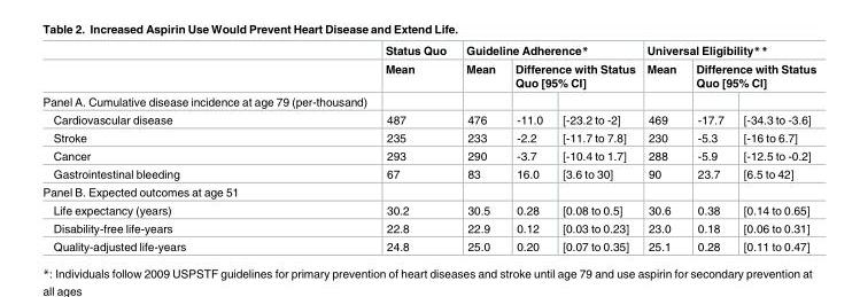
<table><thead><tr><td rowspan="3">Panel A. Cumulative disease incidence at age 79 (per-thousand)</td><td rowspan="3">Status Quo Mean</td><td colspan="3">Guideline Adherence*</td><td colspan="3">Universal Eligibility**</td></tr><tr><td rowspan="2">Mean</td><td colspan="2">Difference with Status Quo [95% CI]</td><td rowspan="2">Mean</td><td colspan="2">Difference with Status Quo [95% CI]</td></tr><tr><td></td><td></td><td></td><td></td></tr></thead><tbody><tr><td>Cardiovascular disease</td><td>487</td><td>476</td><td>-11.0</td><td>[-23.2 to -2]</td><td>469</td><td>-17.7</td><td>[-34.3 to -3.6]</td></tr><tr><td>Stroke</td><td>235</td><td>233</td><td>-2.2</td><td>[-11.7 to 7.8]</td><td>230</td><td>-5.3</td><td>[-16 to 6.7]</td></tr><tr><td>Cancer</td><td>293</td><td>290</td><td>-3.7</td><td>[-10.4 to 1.7]</td><td>288</td><td>-5.9</td><td>[-12.5 to -0.2]</td></tr><tr><td>Gastrointestinal bleeding</td><td>67</td><td>83</td><td>16.0</td><td>[3.6 to 30]</td><td>90</td><td>23.7</td><td>[6.5 to 42]</td></tr><tr><td colspan="8">Panel B. Expected outcomes at age 51</td></tr><tr><td>Life expectancy (years)</td><td>30.2</td><td>30.5</td><td>0.28</td><td>[0.08 to 0.5]</td><td>30.6</td><td>0.38</td><td>[0.14 to 0.65]</td></tr><tr><td>Disability-free life-years</td><td>22.8</td><td>22.9</td><td>0.12</td><td>[0.03 to 0.23]</td><td>23.0</td><td>0.18</td><td>[0.06 to 0.31]</td></tr><tr><td>Quality-adjusted life-years</td><td>24.8</td><td>25.0</td><td>0.20</td><td>[0.07 to 0.35]</td><td>25.1</td><td>0.28</td><td>[0.11 to 0.47]</td></tr></tbody></table>